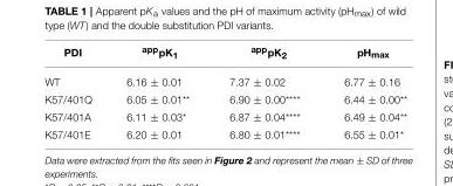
<table><thead><tr><td>PDI</td><td><sup>app</sup>pK<sub>1</sub></td><td><sup>app</sup>pK<sub>2</sub></td><td>pH<sub>max</sub></td></tr></thead><tbody><tr><td>WT</td><td>6.16 ± 0.01</td><td>7.37 ± 0.02</td><td>6.77 ± 0.16</td></tr><tr><td>K57/401Q</td><td>6.05 ± 0.01**</td><td>6.90 ± 0.00****</td><td>6.44 ± 0.00**</td></tr><tr><td>K57/401A</td><td>6.11 ± 0.03*</td><td>6.87 ± 0.04****</td><td>6.49 ± 0.04**</td></tr><tr><td>K57/401E</td><td>6.20 ± 0.01</td><td>6.80 ± 0.01****</td><td>6.55 ± 0.01*</td></tr></tbody></table>